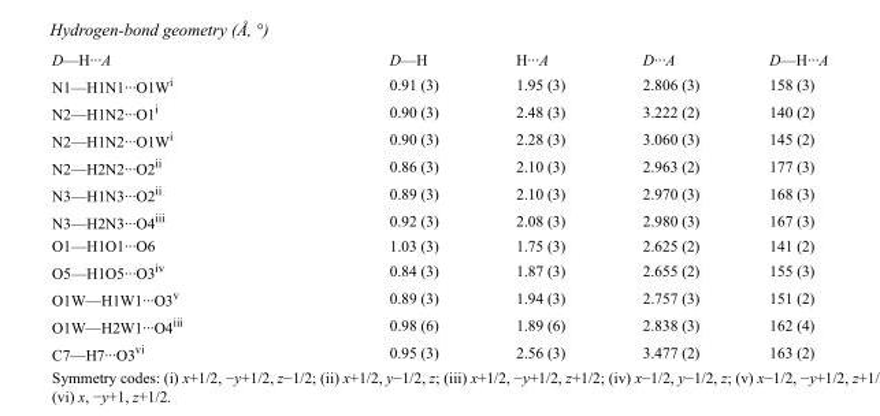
<table><tbody><tr><td>D—H···A</td><td>D—H</td><td>H···A</td><td>D···A</td><td>D—H···A</td></tr><tr><td>N1—H1N1···O1W<sup>i</sup></td><td>0.91 (3)</td><td>1.95 (3)</td><td>2.806 (3)</td><td>158 (3)</td></tr><tr><td>N2—H1N2···O1<sup>i</sup></td><td>0.90 (3)</td><td>2.48 (3)</td><td>3.222 (2)</td><td>140 (2)</td></tr><tr><td>N2—H1N2···O1W<sup>i</sup></td><td>0.90 (3)</td><td>2.28 (3)</td><td>3.060 (3)</td><td>145 (2)</td></tr><tr><td>N2—H2N2···O2<sup>ii</sup></td><td>0.86 (3)</td><td>2.10 (3)</td><td>2.963 (2)</td><td>177 (3)</td></tr><tr><td>N3—H1N3···O2<sup>ii</sup></td><td>0.89 (3)</td><td>2.10 (3)</td><td>2.970 (3)</td><td>168 (3)</td></tr><tr><td>N3—H2N3···O4<sup>iii</sup></td><td>0.92 (3)</td><td>2.08 (3)</td><td>2.980 (3)</td><td>167 (3)</td></tr><tr><td>O1—H1O1···O6</td><td>1.03 (3)</td><td>1.75 (3)</td><td>2.625 (2)</td><td>141 (2)</td></tr><tr><td>O5—H1O5···O3<sup>iv</sup></td><td>0.84 (3)</td><td>1.87 (3)</td><td>2.655 (2)</td><td>155 (3)</td></tr><tr><td>O1W—H1W1···O3<sup>v</sup></td><td>0.89 (3)</td><td>1.94 (3)</td><td>2.757 (3)</td><td>151 (2)</td></tr><tr><td>O1W—H2W1···O4<sup>iii</sup></td><td>0.98 (6)</td><td>1.89 (6)</td><td>2.838 (3)</td><td>162 (4)</td></tr><tr><td>C7—H7···O3<sup>vi</sup></td><td>0.95 (3)</td><td>2.56 (3)</td><td>3.477 (2)</td><td>163 (2)</td></tr></tbody></table>